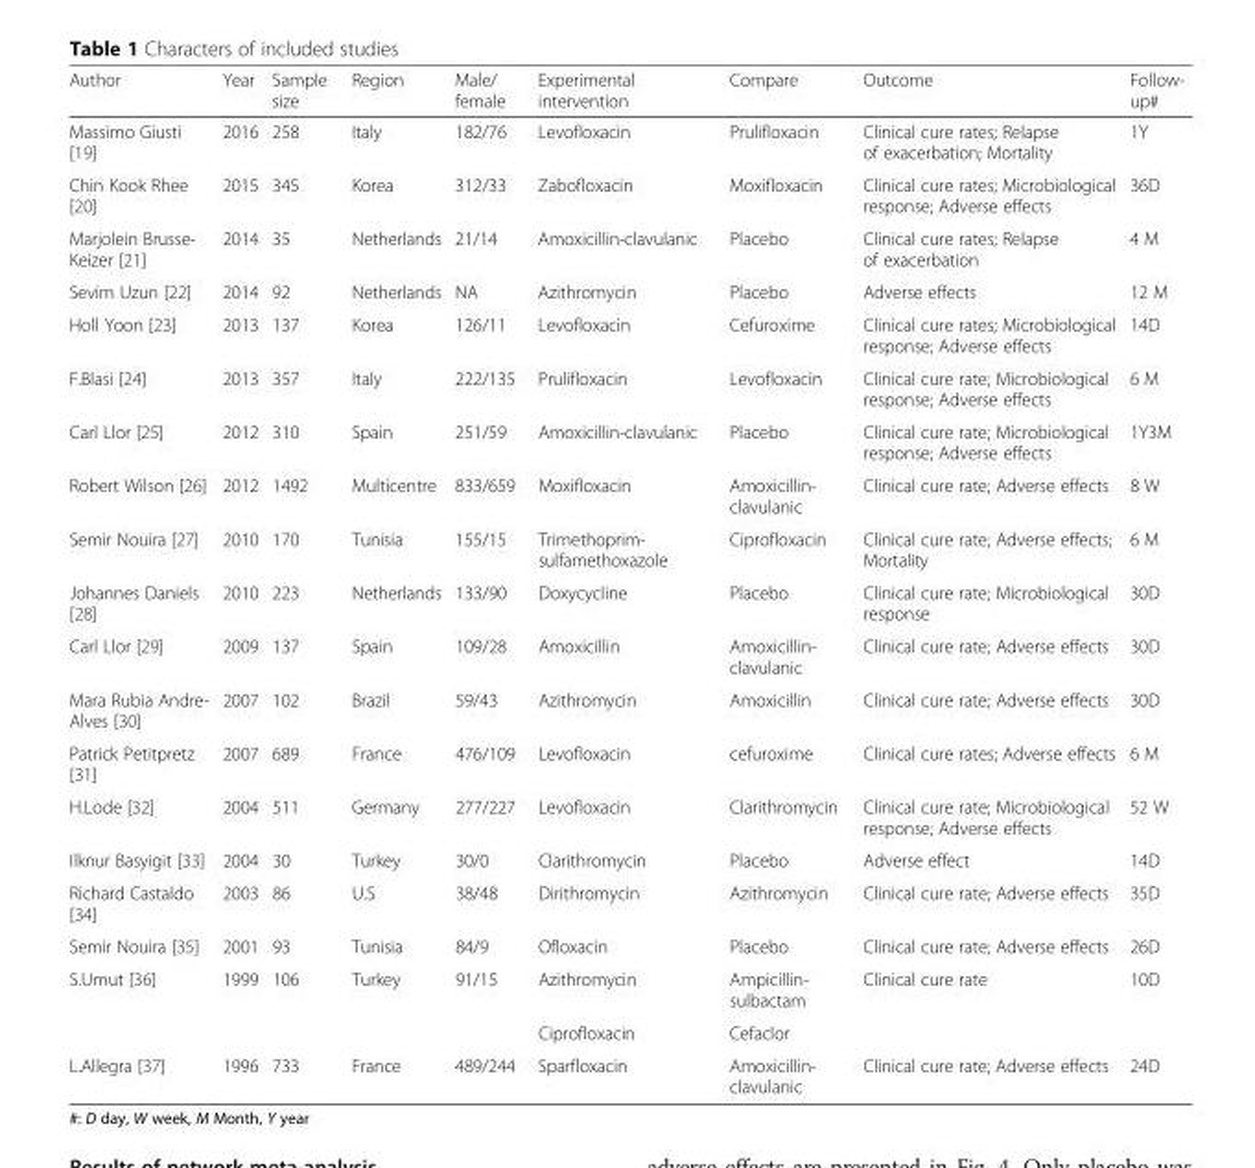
<table><thead><tr><td>Author</td><td>Year</td><td>Sample size</td><td>Region</td><td>Male/ female</td><td>Experimental intervention</td><td>Compare</td><td>Outcome</td><td>Follow- up#</td></tr></thead><tbody><tr><td>Massimo Giusti [19]</td><td>2016</td><td>258</td><td>Italy</td><td>182/76</td><td>Levofloxacin</td><td>Prulifloxacin</td><td>Clinical cure rates; Relapse of exacerbation; Mortality</td><td>1Y</td></tr><tr><td>Chin Kook Rhee [20]</td><td>2015</td><td>345</td><td>Korea</td><td>312/33</td><td>Zabofloxacin</td><td>Moxifloxacin</td><td>Clinical cure rates; Microbiological response; Adverse effects</td><td>36D</td></tr><tr><td>Marjolein Brusse- Keizer [21]</td><td>2014</td><td>35</td><td>Netherlands</td><td>21/14</td><td>Amoxicillin-clavulanic</td><td>Placebo</td><td>Clinical cure rates; Relapse of exacerbation</td><td>4 M</td></tr><tr><td>Sevim Uzun [22]</td><td>2014</td><td>92</td><td>Netherlands</td><td>NA</td><td>Azithromycin</td><td>Placebo</td><td>Adverse effects</td><td>12 M</td></tr><tr><td>Holl Yoon [23]</td><td>2013</td><td>137</td><td>Korea</td><td>126/11</td><td>Levofloxacin</td><td>Cefuroxime</td><td>Clinical cure rates; Microbiological response; Adverse effects</td><td>14D</td></tr><tr><td>F.Blasi [24]</td><td>2013</td><td>357</td><td>Italy</td><td>222/135</td><td>Prulifloxacin</td><td>Levofloxacin</td><td>Clinical cure rate; Microbiological response; Adverse effects</td><td>6 M</td></tr><tr><td>Carl Llor [25]</td><td>2012</td><td>310</td><td>Spain</td><td>251/59</td><td>Amoxicillin-clavulanic</td><td>Placebo</td><td>Clinical cure rate; Microbiological response; Adverse effects</td><td>1Y3M</td></tr><tr><td>Robert Wilson [26]</td><td>2012</td><td>1492</td><td>Multicentre</td><td>833/659</td><td>Moxifloxacin</td><td>Amoxicillin- clavulanic</td><td>Clinical cure rate; Adverse effects</td><td>8 W</td></tr><tr><td>Semir Nouira [27]</td><td>2010</td><td>170</td><td>Tunisia</td><td>155/15</td><td>Trimethoprim- sulfamethoxazole</td><td>Ciprofloxacin</td><td>Clinical cure rate; Adverse effects; Mortality</td><td>6 M</td></tr><tr><td>Johannes Daniels [28]</td><td>2010</td><td>223</td><td>Netherlands</td><td>133/90</td><td>Doxycycline</td><td>Placebo</td><td>Clinical cure rate; Microbiological response</td><td>30D</td></tr><tr><td>Carl Llor [29]</td><td>2009</td><td>137</td><td>Spain</td><td>109/28</td><td>Amoxicillin</td><td>Amoxicillin- clavulanic</td><td>Clinical cure rate; Adverse effects</td><td>30D</td></tr><tr><td>Mara Rubia Andre- Alves [30]</td><td>2007</td><td>102</td><td>Brazil</td><td>59/43</td><td>Azithromycin</td><td>Amoxicillin</td><td>Clinical cure rate; Adverse effects</td><td>30D</td></tr><tr><td>Patrick Petitpretz [31]</td><td>2007</td><td>689</td><td>France</td><td>476/109</td><td>Levofloxacin</td><td>cefuroxime</td><td>Clinical cure rates; Adverse effects</td><td>6 M</td></tr><tr><td>H.Lode [32]</td><td>2004</td><td>511</td><td>Germany</td><td>277/227</td><td>Levofloxacin</td><td>Clarithromycin</td><td>Clinical cure rate; Microbiological response; Adverse effects</td><td>52 W</td></tr><tr><td>Ilknur Basyigit [33]</td><td>2004</td><td>30</td><td>Turkey</td><td>30/0</td><td>Clarithromycin</td><td>Placebo</td><td>Adverse effect</td><td>14D</td></tr><tr><td>Richard Castaldo [34]</td><td>2003</td><td>86</td><td>U.S</td><td>38/48</td><td>Dirithromycin</td><td>Azithromycin</td><td>Clinical cure rate; Adverse effects</td><td>35D</td></tr><tr><td>Semir Nouira [35]</td><td>2001</td><td>93</td><td>Tunisia</td><td>84/9</td><td>Ofloxacin</td><td>Placebo</td><td>Clinical cure rate; Adverse effects</td><td>26D</td></tr><tr><td rowspan="2">S.Umut [36]</td><td>1999</td><td>106</td><td>Turkey</td><td>91/15</td><td>Azithromycin</td><td>Ampicillin- sulbactam</td><td>Clinical cure rate</td><td>10D</td></tr><tr><td></td><td></td><td></td><td></td><td>Ciprofloxacin</td><td>Cefaclor</td><td></td><td></td></tr><tr><td>L.Allegra [37]</td><td>1996</td><td>733</td><td>France</td><td>489/244</td><td>Sparfloxacin</td><td>Amoxicillin- clavulanic</td><td>Clinical cure rate; Adverse effects</td><td>24D</td></tr></tbody></table>